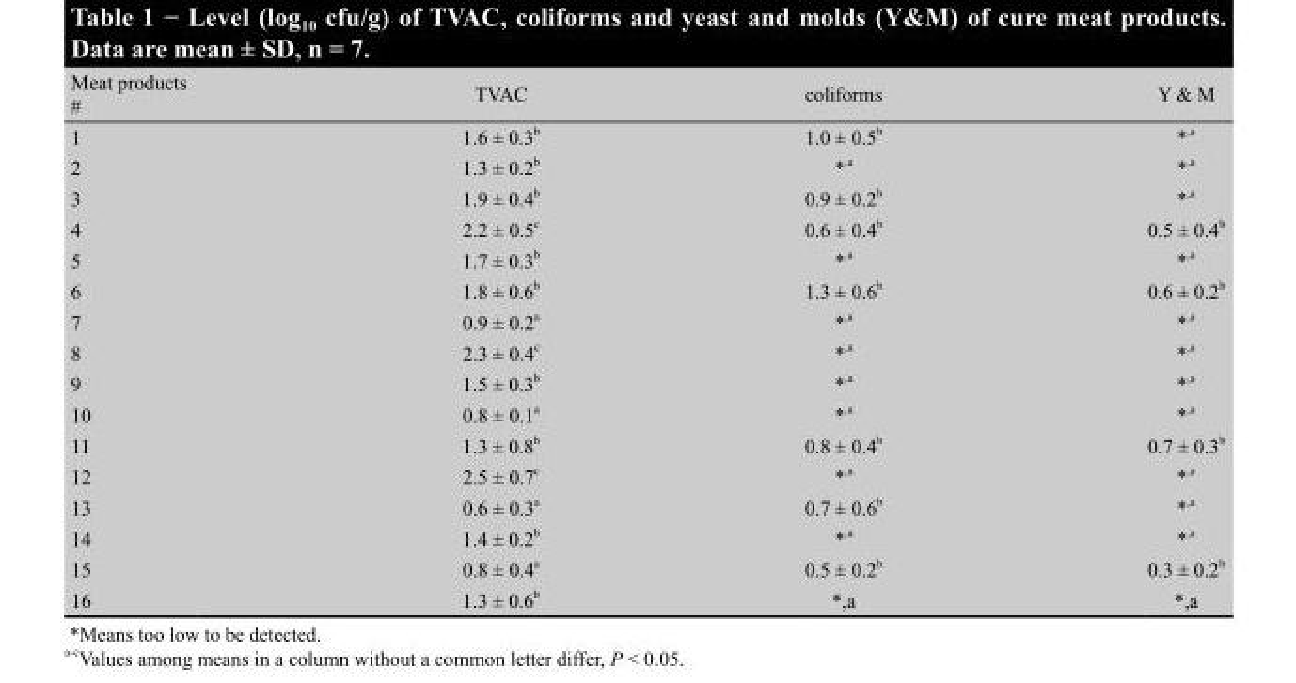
<table><thead><tr><td>Meat products #</td><td>TVAC</td><td>coliforms</td><td>Y &amp; M</td></tr></thead><tbody><tr><td>1</td><td>1.6 ± 0.3 <sup>b</sup></td><td>1.0 ± 0.5 <sup>b</sup></td><td>* ,<sup>a</sup></td></tr><tr><td>2</td><td>1.3 ± 0.2 <sup>b</sup></td><td>* ,<sup>a</sup></td><td>* ,<sup>a</sup></td></tr><tr><td>3</td><td>1.9 ± 0.4 <sup>b</sup></td><td>0.9 ± 0.2 <sup>b</sup></td><td>* ,<sup>a</sup></td></tr><tr><td>4</td><td>2.2 ± 0.5 <sup>c</sup></td><td>0.6 ± 0.4 <sup>b</sup></td><td>0.5 ± 0.4 <sup>b</sup></td></tr><tr><td>5</td><td>1.7 ± 0.3 <sup>b</sup></td><td>* ,<sup>a</sup></td><td>* ,<sup>a</sup></td></tr><tr><td>6</td><td>1.8 ± 0.6 <sup>b</sup></td><td>1.3 ± 0.6 <sup>b</sup></td><td>0.6 ± 0.2 <sup>b</sup></td></tr><tr><td>7</td><td>0.9 ± 0.2 <sup>a</sup></td><td>* ,<sup>a</sup></td><td>* ,<sup>a</sup></td></tr><tr><td>8</td><td>2.3 ± 0.4 <sup>c</sup></td><td>* ,<sup>a</sup></td><td>* ,<sup>a</sup></td></tr><tr><td>9</td><td>1.5 ± 0.3 <sup>b</sup></td><td>* ,<sup>a</sup></td><td>* ,<sup>a</sup></td></tr><tr><td>10</td><td>0.8 ± 0.1 <sup>a</sup></td><td>* ,<sup>a</sup></td><td>* ,<sup>a</sup></td></tr><tr><td>11</td><td>1.3 ± 0.8 <sup>b</sup></td><td>0.8 ± 0.4 <sup>b</sup></td><td>0.7 ± 0.3 <sup>b</sup></td></tr><tr><td>12</td><td>2.5 ± 0.7 <sup>c</sup></td><td>* ,<sup>a</sup></td><td>* ,<sup>a</sup></td></tr><tr><td>13</td><td>0.6 ± 0.3 <sup>a</sup></td><td>0.7 ± 0.6 <sup>b</sup></td><td>* ,<sup>a</sup></td></tr><tr><td>14</td><td>1.4 ± 0.2 <sup>b</sup></td><td>* ,<sup>a</sup></td><td>* ,<sup>a</sup></td></tr><tr><td>15</td><td>0.8 ± 0.4 <sup>a</sup></td><td>0.5 ± 0.2 <sup>b</sup></td><td>0.3 ± 0.2 <sup>b</sup></td></tr><tr><td>16</td><td>1.3 ± 0.6 <sup>b</sup></td><td>*,a</td><td>*,a</td></tr></tbody></table>